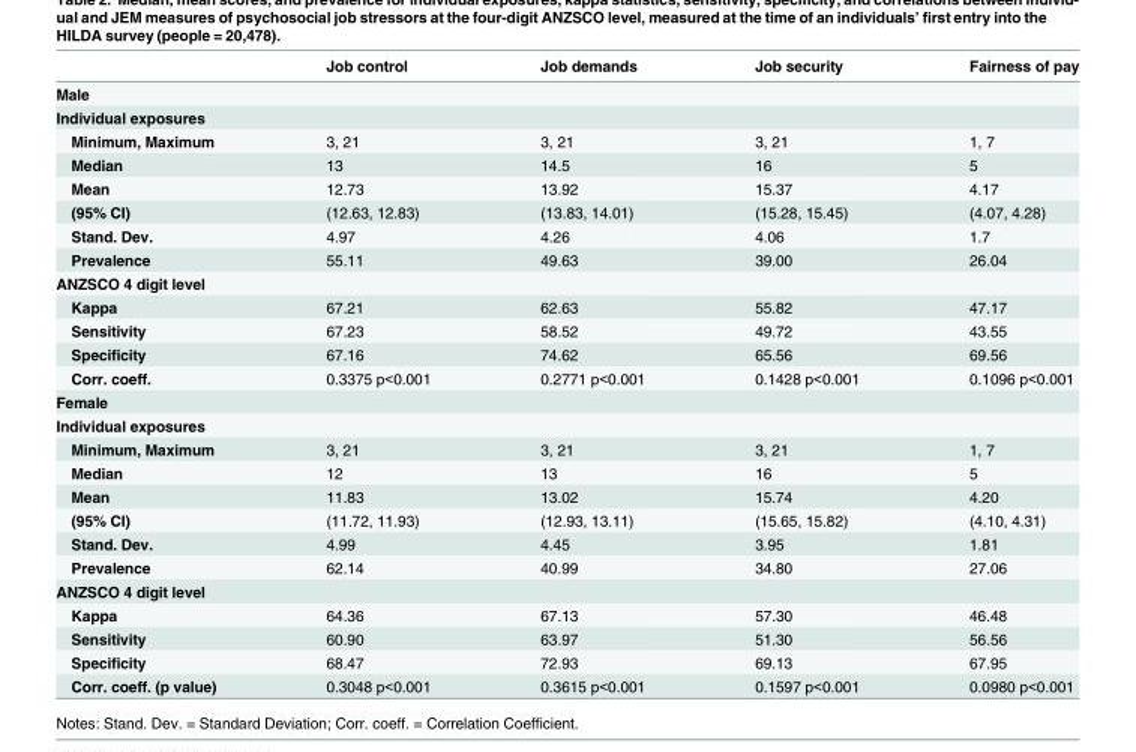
<table><thead><tr><td></td><td>Job control</td><td>Job demands</td><td>Job security</td><td>Fairness of pay</td></tr></thead><tbody><tr><td colspan="5">Male</td></tr><tr><td colspan="5">Individual exposures</td></tr><tr><td>Minimum, Maximum</td><td>3, 21</td><td>3, 21</td><td>3, 21</td><td>1, 7</td></tr><tr><td>Median</td><td>13</td><td>14.5</td><td>16</td><td>5</td></tr><tr><td>Mean</td><td>12.73</td><td>13.92</td><td>15.37</td><td>4.17</td></tr><tr><td>(95% CI)</td><td>(12.63, 12.83)</td><td>(13.83, 14.01)</td><td>(15.28, 15.45)</td><td>(4.07, 4.28)</td></tr><tr><td>Stand. Dev.</td><td>4.97</td><td>4.26</td><td>4.06</td><td>1.7</td></tr><tr><td>Prevalence</td><td>55.11</td><td>49.63</td><td>39.00</td><td>26.04</td></tr><tr><td colspan="5">ANZSCO 4 digit level</td></tr><tr><td>Kappa</td><td>67.21</td><td>62.63</td><td>55.82</td><td>47.17</td></tr><tr><td>Sensitivity</td><td>67.23</td><td>58.52</td><td>49.72</td><td>43.55</td></tr><tr><td>Specificity</td><td>67.16</td><td>74.62</td><td>65.56</td><td>69.56</td></tr><tr><td>Corr. coeff.</td><td>0.3375 p&lt;0.001</td><td>0.2771 p&lt;0.001</td><td>0.1428 p&lt;0.001</td><td>0.1096 p&lt;0.001</td></tr><tr><td colspan="5">Female</td></tr><tr><td colspan="5">Individual exposures</td></tr><tr><td>Minimum, Maximum</td><td>3, 21</td><td>3, 21</td><td>3, 21</td><td>1, 7</td></tr><tr><td>Median</td><td>12</td><td>13</td><td>16</td><td>5</td></tr><tr><td>Mean</td><td>11.83</td><td>13.02</td><td>15.74</td><td>4.20</td></tr><tr><td>(95% CI)</td><td>(11.72, 11.93)</td><td>(12.93, 13.11)</td><td>(15.65, 15.82)</td><td>(4.10, 4.31)</td></tr><tr><td>Stand. Dev.</td><td>4.99</td><td>4.45</td><td>3.95</td><td>1.81</td></tr><tr><td>Prevalence</td><td>62.14</td><td>40.99</td><td>34.80</td><td>27.06</td></tr><tr><td colspan="5">ANZSCO 4 digit level</td></tr><tr><td>Kappa</td><td>64.36</td><td>67.13</td><td>57.30</td><td>46.48</td></tr><tr><td>Sensitivity</td><td>60.90</td><td>63.97</td><td>51.30</td><td>56.56</td></tr><tr><td>Specificity</td><td>68.47</td><td>72.93</td><td>69.13</td><td>67.95</td></tr><tr><td>Corr. coeff. (p value)</td><td>0.3048 p&lt;0.001</td><td>0.3615 p&lt;0.001</td><td>0.1597 p&lt;0.001</td><td>0.0980 p&lt;0.001</td></tr></tbody></table>